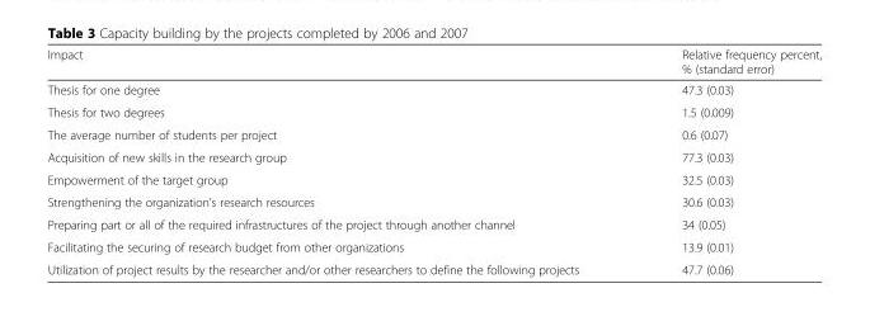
<table><thead><tr><td>Impact</td><td>Relative frequency percent, % (standard error)</td></tr></thead><tbody><tr><td>Thesis for one degree</td><td>47.3 (0.03)</td></tr><tr><td>Thesis for two degrees</td><td>1.5 (0.009)</td></tr><tr><td>The average number of students per project</td><td>0.6 (0.07)</td></tr><tr><td>Acquisition of new skills in the research group</td><td>77.3 (0.03)</td></tr><tr><td>Empowerment of the target group</td><td>32.5 (0.03)</td></tr><tr><td>Strengthening the organization’s research resources</td><td>30.6 (0.03)</td></tr><tr><td>Preparing part or all of the required infrastructures of the project through another channel</td><td>34 (0.05)</td></tr><tr><td>Facilitating the securing of research budget from other organizations</td><td>13.9 (0.01)</td></tr><tr><td>Utilization of project results by the researcher and/or other researchers to define the following projects</td><td>47.7 (0.06)</td></tr></tbody></table>